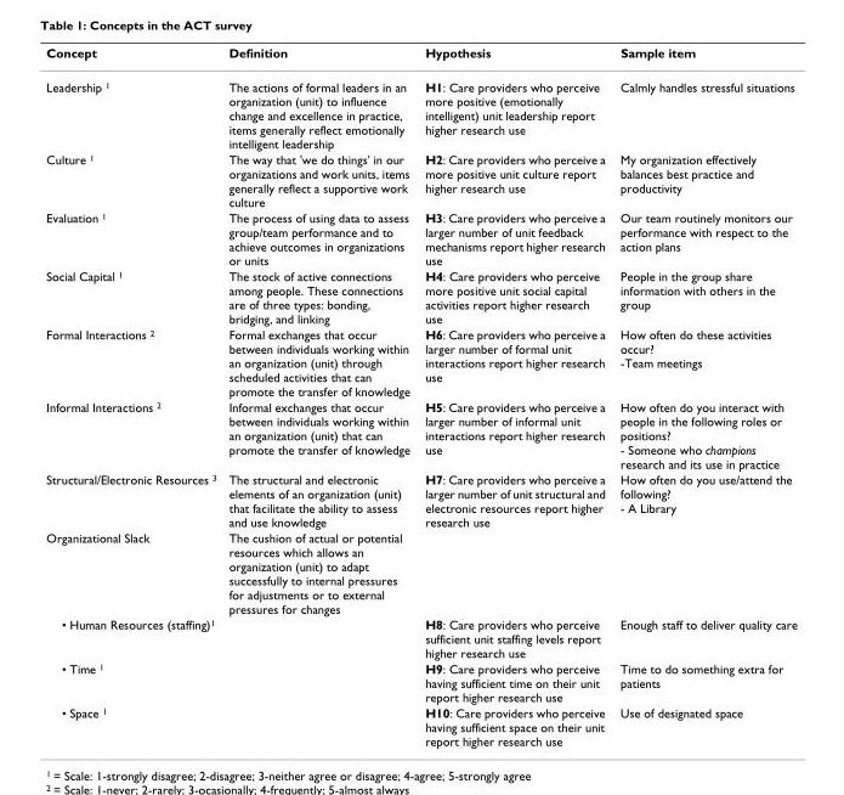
<table><thead><tr><td>Concept</td><td>Definition</td><td>Hypothesis</td><td>Sample item</td></tr></thead><tbody><tr><td>Leadership <sup>1</sup></td><td>The actions of formal leaders in an organization (unit) to influence change and excellence in practice, items generally reflect emotionally intelligent leadership</td><td>H1: Care providers who perceive more positive (emotionally intelligent) unit leadership report higher research use</td><td>Calmly handles stressful situations</td></tr><tr><td>Culture <sup>1</sup></td><td>The way that &#x27;we do things&#x27; in our organizations and work units, items generally reflect a supportive work culture</td><td>H2: Care providers who perceive a more positive unit culture report higher research use</td><td>My organization effectively balances best practice and productivity</td></tr><tr><td>Evaluation <sup>1</sup></td><td>The process of using data to assess group/team performance and to achieve outcomes in organizations or units</td><td>H3: Care providers who perceive a larger number of unit feedback mechanisms report higher research use</td><td>Our team routinely monitors our performance with respect to the action plans</td></tr><tr><td>Social Capital <sup>1</sup></td><td>The stock of active connections among people. These connections are of three types: bonding, bridging, and linking</td><td>H4: Care providers who perceive more positive unit social capital activities report higher research use</td><td>People in the group share information with others in the group</td></tr><tr><td>Formal Interactions <sup>2</sup></td><td>Formal exchanges that occur between individuals working within an organization (unit) through scheduled activities that can promote the transfer of knowledge</td><td>H6: Care providers who perceive a larger number of formal unit interactions report higher research use</td><td>How often do these activities occur? -Team meetings</td></tr><tr><td>Informal Interactions <sup>2</sup></td><td>Informal exchanges that occur between individuals working within an organization (unit) that can promote the transfer of knowledge</td><td>H5: Care providers who perceive a larger number of informal unit interactions report higher research use</td><td>How often do you interact with people in the following roles or positions? - Someone who champions research and its use in practice</td></tr><tr><td>Structural/Electronic Resources <sup>3</sup></td><td>The structural and electronic elements of an organization (unit) that facilitate the ability to assess and use knowledge</td><td>H7: Care providers who perceive a larger number of unit structural and electronic resources report higher research use</td><td>How often do you use/attend the following? - A Library</td></tr><tr><td>Organizational Slack</td><td>The cushion of actual or potential resources which allows an organization (unit) to adapt successfully to internal pressures for adjustments or to external pressures for changes</td><td></td><td></td></tr><tr><td>• Human Resources (staffing)<sup>1</sup></td><td></td><td>H8: Care providers who perceive sufficient unit staffing levels report higher research use</td><td>Enough staff to deliver quality care</td></tr><tr><td>• Time <sup>1</sup></td><td></td><td>H9: Care providers who perceive having sufficient time on their unit report higher research use</td><td>Time to do something extra for patients</td></tr><tr><td>• Space <sup>1</sup></td><td></td><td>H10: Care providers who perceive having sufficient space on their unit report higher research use</td><td>Use of designated space</td></tr></tbody></table>